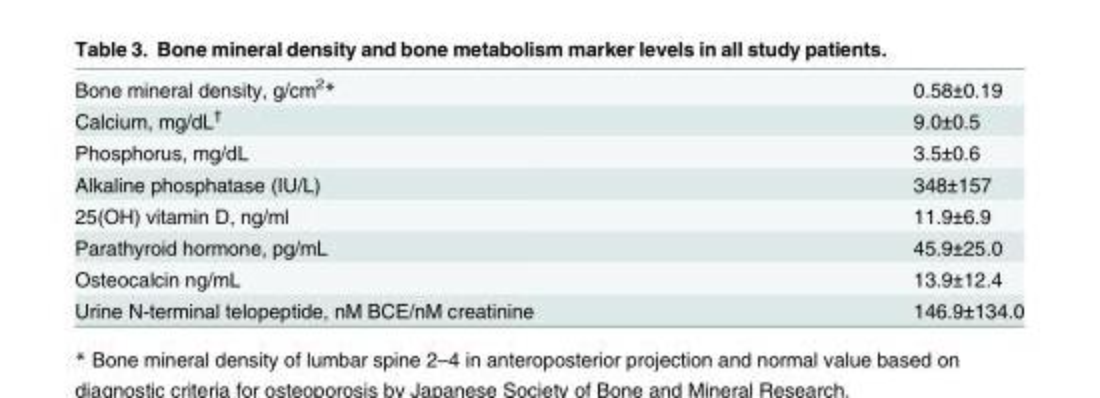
<table><tbody><tr><td>Bone mineral density, g/cm<sup>2</sup>*</td><td>0.58±0.19</td></tr><tr><td>Calcium, mg/dL<sup>†</sup></td><td>9.0±0.5</td></tr><tr><td>Phosphorus, mg/dL</td><td>3.5±0.6</td></tr><tr><td>Alkaline phosphatase (IU/L)</td><td>348±157</td></tr><tr><td>25(OH) vitamin D, ng/ml</td><td>11.9±6.9</td></tr><tr><td>Parathyroid hormone, pg/mL</td><td>45.9±25.0</td></tr><tr><td>Osteocalcin ng/mL</td><td>13.9±12.4</td></tr><tr><td>Urine N-terminal telopeptide, nM BCE/nM creatinine</td><td>146.9±134.0</td></tr></tbody></table>